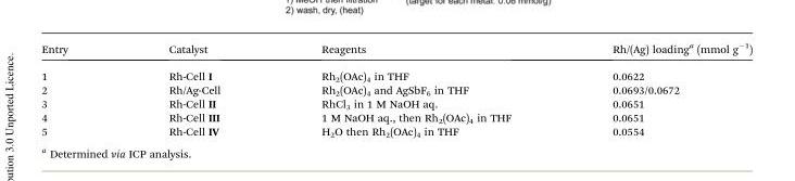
<table><thead><tr><td>Entry</td><td>Catalyst</td><td>Reagents</td><td>Rh/(Ag) loading<sup>a</sup> (mmol g<sup>–1</sup>)</td></tr></thead><tbody><tr><td>1</td><td>Rh-Cell I</td><td>Rh<sub>2</sub>(OAc)<sub>4</sub> in THF</td><td>0.0622</td></tr><tr><td>2</td><td>Rh/Ag-Cell</td><td>Rh<sub>2</sub>(OAc)<sub>4</sub> and AgSbF<sub>6</sub> in THF</td><td>0.0693/0.0672</td></tr><tr><td>3</td><td>Rh-Cell II</td><td>RhCl<sub>3</sub> in 1 M NaOH aq.</td><td>0.0651</td></tr><tr><td>4</td><td>Rh-Cell III</td><td>1 M NaOH aq., then Rh<sub>2</sub>(OAc)<sub>4</sub> in THF</td><td>0.0651</td></tr><tr><td>5</td><td>Rh-Cell IV</td><td>H<sub>2</sub>O then Rh<sub>2</sub>(OAc)<sub>4</sub> in THF</td><td>0.0554</td></tr></tbody></table>